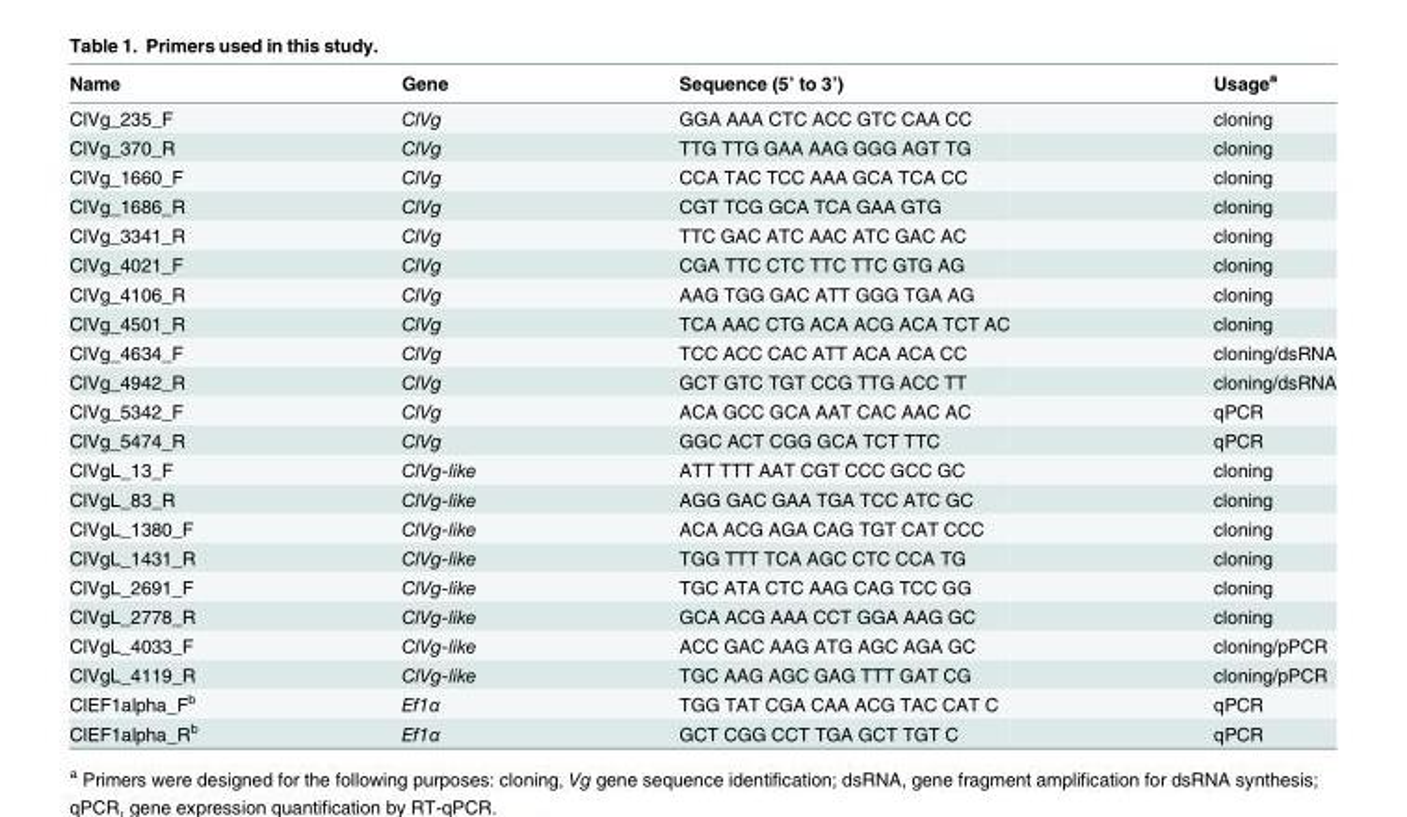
<table><thead><tr><td>Name</td><td>Gene</td><td>Sequence (5’ to 3’)</td><td>Usage<sup>a</sup></td></tr></thead><tbody><tr><td>ClVg_235_F</td><td>ClVg</td><td>GGA AAA CTC ACC GTC CAA CC</td><td>cloning</td></tr><tr><td>ClVg_370_R</td><td>ClVg</td><td>TTG TTG GAA AAG GGG AGT TG</td><td>cloning</td></tr><tr><td>ClVg_1660_F</td><td>ClVg</td><td>CCA TAC TCC AAA GCA TCA CC</td><td>cloning</td></tr><tr><td>ClVg_1686_R</td><td>ClVg</td><td>CGT TCG GCA TCA GAA GTG</td><td>cloning</td></tr><tr><td>ClVg_3341_R</td><td>ClVg</td><td>TTC GAC ATC AAC ATC GAC AC</td><td>cloning</td></tr><tr><td>ClVg_4021_F</td><td>ClVg</td><td>CGA TTC CTC TTC TTC GTG AG</td><td>cloning</td></tr><tr><td>ClVg_4106_R</td><td>ClVg</td><td>AAG TGG GAC ATT GGG TGA AG</td><td>cloning</td></tr><tr><td>ClVg_4501_R</td><td>ClVg</td><td>TCA AAC CTG ACA ACG ACA TCT AC</td><td>cloning</td></tr><tr><td>ClVg_4634_F</td><td>ClVg</td><td>TCC ACC CAC ATT ACA ACA CC</td><td>cloning/dsRNA</td></tr><tr><td>ClVg_4942_R</td><td>ClVg</td><td>GCT GTC TGT CCG TTG ACC TT</td><td>cloning/dsRNA</td></tr><tr><td>ClVg_5342_F</td><td>ClVg</td><td>ACA GCC GCA AAT CAC AAC AC</td><td>qPCR</td></tr><tr><td>ClVg_5474_R</td><td>ClVg</td><td>GGC ACT CGG GCA TCT TTC</td><td>qPCR</td></tr><tr><td>ClVgL_13_F</td><td>ClVg-like</td><td>ATT TTT AAT CGT CCC GCC GC</td><td>cloning</td></tr><tr><td>ClVgL_83_R</td><td>ClVg-like</td><td>AGG GAC GAA TGA TCC ATC GC</td><td>cloning</td></tr><tr><td>ClVgL_1380_F</td><td>ClVg-like</td><td>ACA ACG AGA CAG TGT CAT CCC</td><td>cloning</td></tr><tr><td>ClVgL_1431_R</td><td>ClVg-like</td><td>TGG TTT TCA AGC CTC CCA TG</td><td>cloning</td></tr><tr><td>ClVgL_2691_F</td><td>ClVg-like</td><td>TGC ATA CTC AAG CAG TCC GG</td><td>cloning</td></tr><tr><td>ClVgL_2778_R</td><td>ClVg-like</td><td>GCA ACG AAA CCT GGA AAG GC</td><td>cloning</td></tr><tr><td>ClVgL_4033_F</td><td>ClVg-like</td><td>ACC GAC AAG ATG AGC AGA GC</td><td>cloning/pPCR</td></tr><tr><td>ClVgL_4119_R</td><td>ClVg-like</td><td>TGC AAG AGC GAG TTT GAT CG</td><td>cloning/pPCR</td></tr><tr><td>ClEF1alpha_F<sup>b</sup></td><td>Ef1α</td><td>TGG TAT CGA CAA ACG TAC CAT C</td><td>qPCR</td></tr><tr><td>ClEF1alpha_R<sup>b</sup></td><td>Ef1α</td><td>GCT CGG CCT TGA GCT TGT C</td><td>qPCR</td></tr></tbody></table>